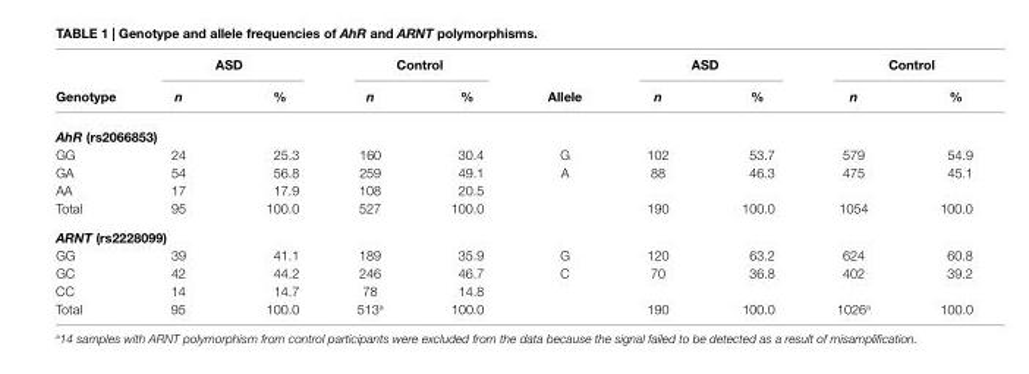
<table><thead><tr><td rowspan="2">genotype</td><td colspan="2">asD</td><td colspan="2">control</td><td rowspan="2">allele</td><td colspan="2">asD</td><td colspan="2">control</td></tr><tr><td>n</td><td>%</td><td>n</td><td>%</td><td>n</td><td>%</td><td>n</td><td>%</td></tr></thead><tbody><tr><td colspan="10">AhR (rs2066853)</td></tr><tr><td>GG</td><td>24</td><td>25.3</td><td>160</td><td>30.4</td><td>G</td><td>102</td><td>53.7</td><td>579</td><td>54.9</td></tr><tr><td>GA</td><td>54</td><td>56.8</td><td>259</td><td>49.1</td><td>A</td><td>88</td><td>46.3</td><td>475</td><td>45.1</td></tr><tr><td>AA</td><td>17</td><td>17.9</td><td>108</td><td>20.5</td><td></td><td></td><td></td><td></td><td></td></tr><tr><td>Total</td><td>95</td><td>100.0</td><td>527</td><td>100.0</td><td></td><td>190</td><td>100.0</td><td>1054</td><td>100.0</td></tr><tr><td colspan="10">ARNT (rs2228099)</td></tr><tr><td>GG</td><td>39</td><td>41.1</td><td>189</td><td>35.9</td><td>G</td><td>120</td><td>63.2</td><td>624</td><td>60.8</td></tr><tr><td>GC</td><td>42</td><td>44.2</td><td>246</td><td>46.7</td><td>C</td><td>70</td><td>36.8</td><td>402</td><td>39.2</td></tr><tr><td>CC</td><td>14</td><td>14.7</td><td>78</td><td>14.8</td><td></td><td></td><td></td><td></td><td></td></tr><tr><td>Total</td><td>95</td><td>100.0</td><td>513<sup>a</sup></td><td>100.0</td><td></td><td>190</td><td>100.0</td><td>1026<sup>a</sup></td><td>100.0</td></tr></tbody></table>